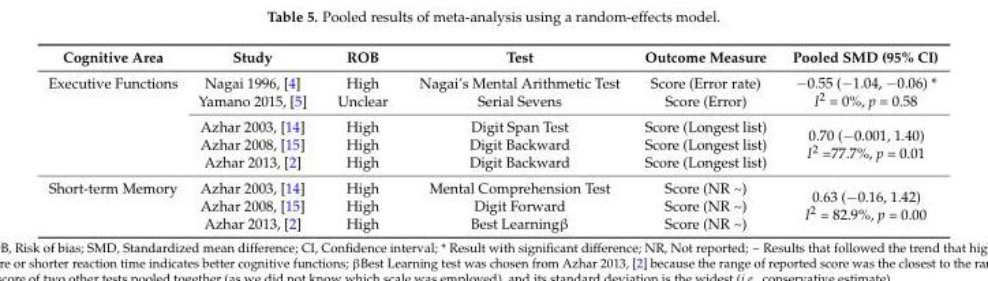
<table><thead><tr><td>Cognitive Area</td><td>Study</td><td>ROB</td><td>Test</td><td>Outcome Measure</td><td>Pooled SMD (95% CI)</td></tr></thead><tbody><tr><td rowspan="5">Executive Functions</td><td>Nagai 1996, [4]</td><td>High</td><td>Nagai’s Mental Arithmetic Test</td><td>Score (Error rate)</td><td rowspan="2">−0.55 (−1.04, −0.06) * I<sup>2</sup> = 0%, p = 0.58</td></tr><tr><td>Yamano 2015, [5]</td><td>Unclear</td><td>Serial Sevens</td><td>Score (Error)</td></tr><tr><td>Azhar 2003, [14]</td><td>High</td><td>Digit Span Test</td><td>Score (Longest list)</td><td rowspan="3">0.70 (−0.001, 1.40) I<sup>2</sup> =77.7%, p = 0.01</td></tr><tr><td>Azhar 2008, [15]</td><td>High</td><td>Digit Backward</td><td>Score (Longest list)</td></tr><tr><td>Azhar 2013, [2]</td><td>High</td><td>Digit Backward</td><td>Score (Longest list)</td></tr><tr><td rowspan="3">Short-term Memory</td><td>Azhar 2003, [14]</td><td>High</td><td>Mental Comprehension Test</td><td>Score (NR ~)</td><td rowspan="3">0.63 (−0.16, 1.42) I<sup>2</sup> = 82.9%, p = 0.00</td></tr><tr><td>Azhar 2008, [15]</td><td>High</td><td>Digit Forward</td><td>Score (NR ~)</td></tr><tr><td>Azhar 2013, [2]</td><td>High</td><td>Best Learningβ</td><td>Score (NR ~)</td></tr></tbody></table>